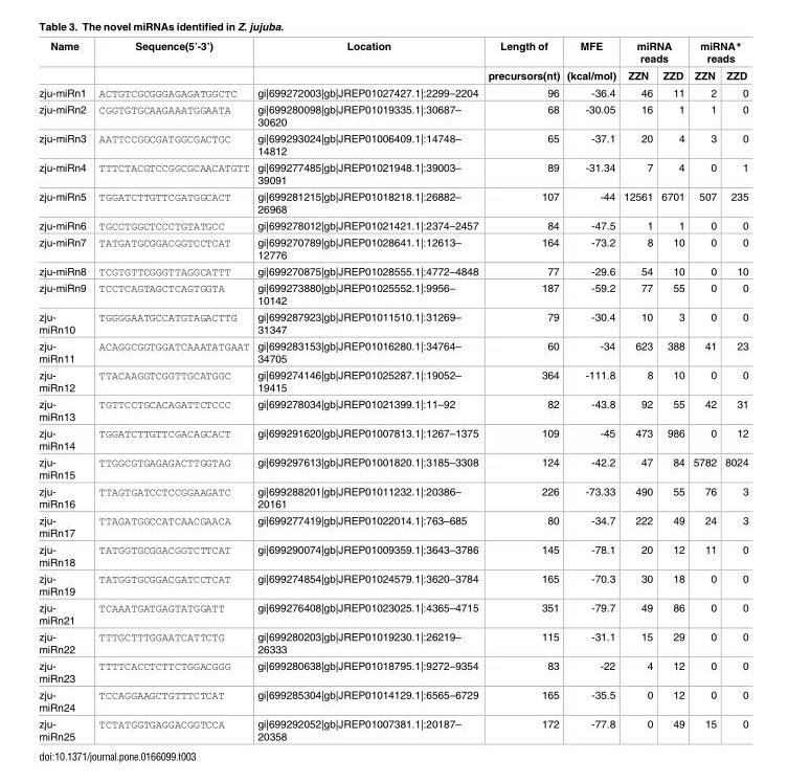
<table><thead><tr><td rowspan="2">Name</td><td rowspan="2">Sequence(5’-3’)</td><td rowspan="2">Location</td><td rowspan="2">Length of precursors(nt)</td><td rowspan="2">MFE (kcal/mol)</td><td colspan="2">miRNA reads</td><td colspan="2">miRNA* reads</td></tr><tr><td>ZZN</td><td>ZZD</td><td>ZZN</td><td>ZZD</td></tr></thead><tbody><tr><td>zju-miRn1</td><td>ACTGTCGCGGGAGAGATGGCTC</td><td>gi|699272003|gb|JREP01027427.1|:2299–2204</td><td>96</td><td>-36.4</td><td>46</td><td>11</td><td>2</td><td>0</td></tr><tr><td>zju-miRn2</td><td>CGGTGTGCAAGAAATGGAATA</td><td>gi|699280098|gb|JREP01019335.1|:30687– 30620</td><td>68</td><td>-30.05</td><td>16</td><td>1</td><td>1</td><td>0</td></tr><tr><td>zju-miRn3</td><td>AATTCCGGCGATGGCGACTGC</td><td>gi|699293024|gb|JREP01006409.1|:14748– 14812</td><td>65</td><td>-37.1</td><td>20</td><td>4</td><td>3</td><td>0</td></tr><tr><td>zju-miRn4</td><td>TTTCTACGTCCGGCGCAACATGTT</td><td>gi|699277485|gb|JREP01021948.1|:39003– 39091</td><td>89</td><td>-31.34</td><td>7</td><td>4</td><td>0</td><td>1</td></tr><tr><td>zju-miRn5</td><td>TGGATCTTGTTCGATGGCACT</td><td>gi|699281215|gb|JREP01018218.1|:26882– 26968</td><td>107</td><td>-44</td><td>12561</td><td>6701</td><td>507</td><td>235</td></tr><tr><td>zju-miRn6</td><td>TGCCTGGCTCCCTGTATGCC</td><td>gi|699278012|gb|JREP01021421.1|:2374–2457</td><td>84</td><td>-47.5</td><td>1</td><td>1</td><td>0</td><td>0</td></tr><tr><td>zju-miRn7</td><td>TATGATGCGGACGGTCCTCAT</td><td>gi|699270789|gb|JREP01028641.1|:12613– 12776</td><td>164</td><td>-73.2</td><td>8</td><td>10</td><td>0</td><td>0</td></tr><tr><td>zju-miRn8</td><td>TCGTGTTCGGGTTAGGCATTT</td><td>gi|699270875|gb|JREP01028555.1|:4772–4848</td><td>77</td><td>-29.6</td><td>54</td><td>10</td><td>0</td><td>10</td></tr><tr><td>zju-miRn9</td><td>TCCTCAGTAGCTCAGTGGTA</td><td>gi|699273880|gb|JREP01025552.1|:9956– 10142</td><td>187</td><td>-59.2</td><td>77</td><td>55</td><td>0</td><td>0</td></tr><tr><td>zju- miRn10</td><td>TGGGGAATGCCATGTAGACTTG</td><td>gi|699287923|gb|JREP01011510.1|:31269– 31347</td><td>79</td><td>-30.4</td><td>10</td><td>3</td><td>0</td><td>0</td></tr><tr><td>zju- miRn11</td><td>ACAGGCGGTGGATCAAATATGAAT</td><td>gi|699283153|gb|JREP01016280.1|:34764– 34705</td><td>60</td><td>-34</td><td>623</td><td>388</td><td>41</td><td>23</td></tr><tr><td>zju- miRn12</td><td>TTACAAGGTCGGTTGCATGGC</td><td>gi|699274146|gb|JREP01025287.1|:19052– 19415</td><td>364</td><td>-111.8</td><td>8</td><td>10</td><td>0</td><td>0</td></tr><tr><td>zju- miRn13</td><td>TGTTCCTGCACAGATTCTCCC</td><td>gi|699278034|gb|JREP01021399.1|:11–92</td><td>82</td><td>-43.8</td><td>92</td><td>55</td><td>42</td><td>31</td></tr><tr><td>zju- miRn14</td><td>TGGATCTTGTTCGACAGCACT</td><td>gi|699291620|gb|JREP01007813.1|:1267–1375</td><td>109</td><td>-45</td><td>473</td><td>986</td><td>0</td><td>12</td></tr><tr><td>zju- miRn15</td><td>TTGGCGTGAGAGACTTGGTAG</td><td>gi|699297613|gb|JREP01001820.1|:3185–3308</td><td>124</td><td>-42.2</td><td>47</td><td>84</td><td>5782</td><td>8024</td></tr><tr><td>zju- miRn16</td><td>TTAGTGATCCTCCGGAAGATC</td><td>gi|699288201|gb|JREP01011232.1|:20386– 20161</td><td>226</td><td>-73.33</td><td>490</td><td>55</td><td>76</td><td>3</td></tr><tr><td>zju- miRn17</td><td>TTAGATGGCCATCAACGAACA</td><td>gi|699277419|gb|JREP01022014.1|:763–685</td><td>80</td><td>-34.7</td><td>222</td><td>49</td><td>24</td><td>3</td></tr><tr><td>zju- miRn18</td><td>TATGGTGCGGACGGTCTTCAT</td><td>gi|699290074|gb|JREP01009359.1|:3643–3786</td><td>145</td><td>-78.1</td><td>20</td><td>12</td><td>11</td><td>0</td></tr><tr><td>zju- miRn19</td><td>TATGGTGCGGACGATCCTCAT</td><td>gi|699274854|gb|JREP01024579.1|:3620–3784</td><td>165</td><td>-70.3</td><td>30</td><td>18</td><td>0</td><td>0</td></tr><tr><td>zju- miRn21</td><td>TCAAATGATGAGTATGGATT</td><td>gi|699276408|gb|JREP01023025.1|:4365–4715</td><td>351</td><td>-79.7</td><td>49</td><td>86</td><td>0</td><td>0</td></tr><tr><td>zju- miRn22</td><td>TTTGCTTTGGAATCATTCTG</td><td>gi|699280203|gb|JREP01019230.1|:26219– 26333</td><td>115</td><td>-31.1</td><td>15</td><td>29</td><td>0</td><td>0</td></tr><tr><td>zju- miRn23</td><td>TTTTCACCTCTTCTGGACGGG</td><td>gi|699280638|gb|JREP01018795.1|:9272–9354</td><td>83</td><td>-22</td><td>4</td><td>12</td><td>0</td><td>0</td></tr><tr><td>zju- miRn24</td><td>TCCAGGAAGCTGTTTCTCAT</td><td>gi|699285304|gb|JREP01014129.1|:6565–6729</td><td>165</td><td>-35.5</td><td>0</td><td>12</td><td>0</td><td>0</td></tr><tr><td>zju- miRn25</td><td>TCTATGGTGAGGACGGTCCA</td><td>gi|699292052|gb|JREP01007381.1|:20187– 20358</td><td>172</td><td>-77.8</td><td>0</td><td>49</td><td>15</td><td>0</td></tr></tbody></table>